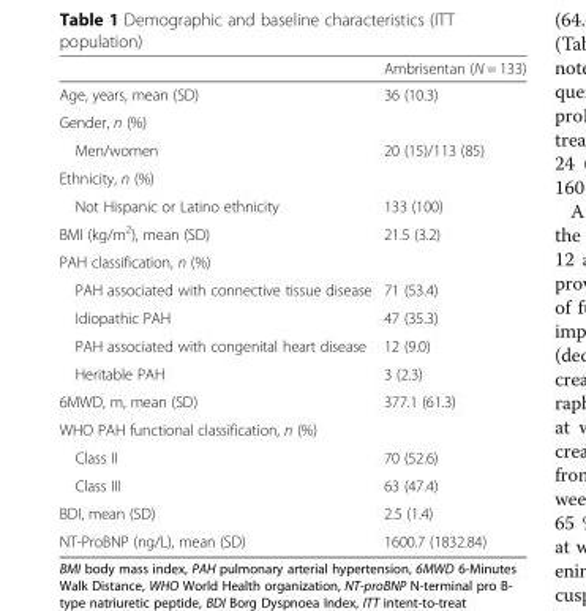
<table><thead><tr><td></td><td>Ambrisentan (N = 133)</td></tr></thead><tbody><tr><td>Age, years, mean (SD)</td><td>36 (10.3)</td></tr><tr><td colspan="2">Gender, n (%)</td></tr><tr><td>Men/women</td><td>20 (15)/113 (85)</td></tr><tr><td colspan="2">Ethnicity, n (%)</td></tr><tr><td>Not Hispanic or Latino ethnicity</td><td>133 (100)</td></tr><tr><td>BMI (kg/m<sup>2</sup>), mean (SD)</td><td>21.5 (3.2)</td></tr><tr><td colspan="2">PAH classification, n (%)</td></tr><tr><td>PAH associated with connective tissue disease</td><td>71 (53.4)</td></tr><tr><td>Idiopathic PAH</td><td>47 (35.3)</td></tr><tr><td>PAH associated with congenital heart disease</td><td>12 (9.0)</td></tr><tr><td>Heritable PAH</td><td>3 (2.3)</td></tr><tr><td>6MWD, m, mean (SD)</td><td>377.1 (61.3)</td></tr><tr><td colspan="2">WHO PAH functional classification, n (%)</td></tr><tr><td>Class II</td><td>70 (52.6)</td></tr><tr><td>Class III</td><td>63 (47.4)</td></tr><tr><td>BDI, mean (SD)</td><td>2.5 (1.4)</td></tr><tr><td>NT-ProBNP (ng/L), mean (SD)</td><td>1600.7 (1832.84)</td></tr></tbody></table>